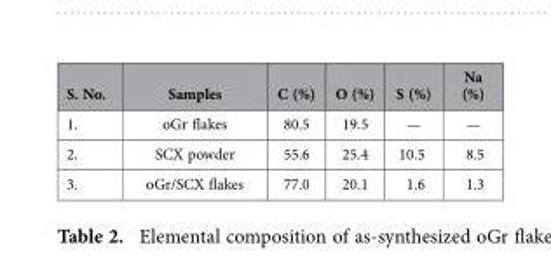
<table><thead><tr><td>S. No.</td><td>Samples</td><td>C (%)</td><td>O (%)</td><td>S (%)</td><td>Na (%)</td></tr></thead><tbody><tr><td>1.</td><td>oGr flakes</td><td>80.5</td><td>19.5</td><td>—</td><td>—</td></tr><tr><td>2.</td><td>SCX powder</td><td>55.6</td><td>25.4</td><td>10.5</td><td>8.5</td></tr><tr><td>3.</td><td>oGr/SCX flakes</td><td>77.0</td><td>20.1</td><td>1.6</td><td>1.3</td></tr></tbody></table>